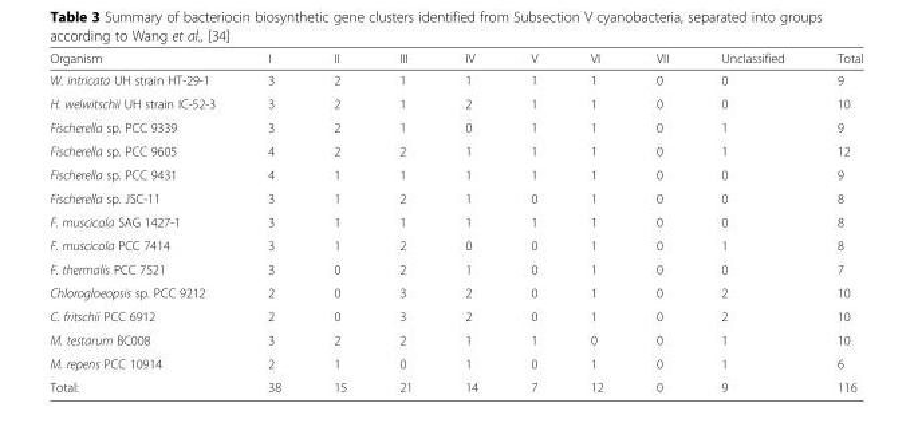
<table><thead><tr><td>Organism</td><td>I</td><td>II</td><td>III</td><td>IV</td><td>V</td><td>VI</td><td>VII</td><td>Unclassified</td><td>Total</td></tr></thead><tbody><tr><td>W. intricata UH strain HT-29-1</td><td>3</td><td>2</td><td>1</td><td>1</td><td>1</td><td>1</td><td>0</td><td>0</td><td>9</td></tr><tr><td>H. welwitschii UH strain IC-52-3</td><td>3</td><td>2</td><td>1</td><td>2</td><td>1</td><td>1</td><td>0</td><td>0</td><td>10</td></tr><tr><td>Fischerella sp. PCC 9339</td><td>3</td><td>2</td><td>1</td><td>0</td><td>1</td><td>1</td><td>0</td><td>1</td><td>9</td></tr><tr><td>Fischerella sp. PCC 9605</td><td>4</td><td>2</td><td>2</td><td>1</td><td>1</td><td>1</td><td>0</td><td>1</td><td>12</td></tr><tr><td>Fischerella sp. PCC 9431</td><td>4</td><td>1</td><td>1</td><td>1</td><td>1</td><td>1</td><td>0</td><td>0</td><td>9</td></tr><tr><td>Fischerella sp. JSC-11</td><td>3</td><td>1</td><td>2</td><td>1</td><td>0</td><td>1</td><td>0</td><td>0</td><td>8</td></tr><tr><td>F. muscicola SAG 1427-1</td><td>3</td><td>1</td><td>1</td><td>1</td><td>1</td><td>1</td><td>0</td><td>0</td><td>8</td></tr><tr><td>F. muscicola PCC 7414</td><td>3</td><td>1</td><td>2</td><td>0</td><td>0</td><td>1</td><td>0</td><td>1</td><td>8</td></tr><tr><td>F. thermalis PCC 7521</td><td>3</td><td>0</td><td>2</td><td>1</td><td>0</td><td>1</td><td>0</td><td>0</td><td>7</td></tr><tr><td>Chlorogloeopsis sp. PCC 9212</td><td>2</td><td>0</td><td>3</td><td>2</td><td>0</td><td>1</td><td>0</td><td>2</td><td>10</td></tr><tr><td>C. fritschii PCC 6912</td><td>2</td><td>0</td><td>3</td><td>2</td><td>0</td><td>1</td><td>0</td><td>2</td><td>10</td></tr><tr><td>M. testarum BC008</td><td>3</td><td>2</td><td>2</td><td>1</td><td>1</td><td>0</td><td>0</td><td>1</td><td>10</td></tr><tr><td>M. repens PCC 10914</td><td>2</td><td>1</td><td>0</td><td>1</td><td>0</td><td>1</td><td>0</td><td>1</td><td>6</td></tr><tr><td>Total:</td><td>38</td><td>15</td><td>21</td><td>14</td><td>7</td><td>12</td><td>0</td><td>9</td><td>116</td></tr></tbody></table>